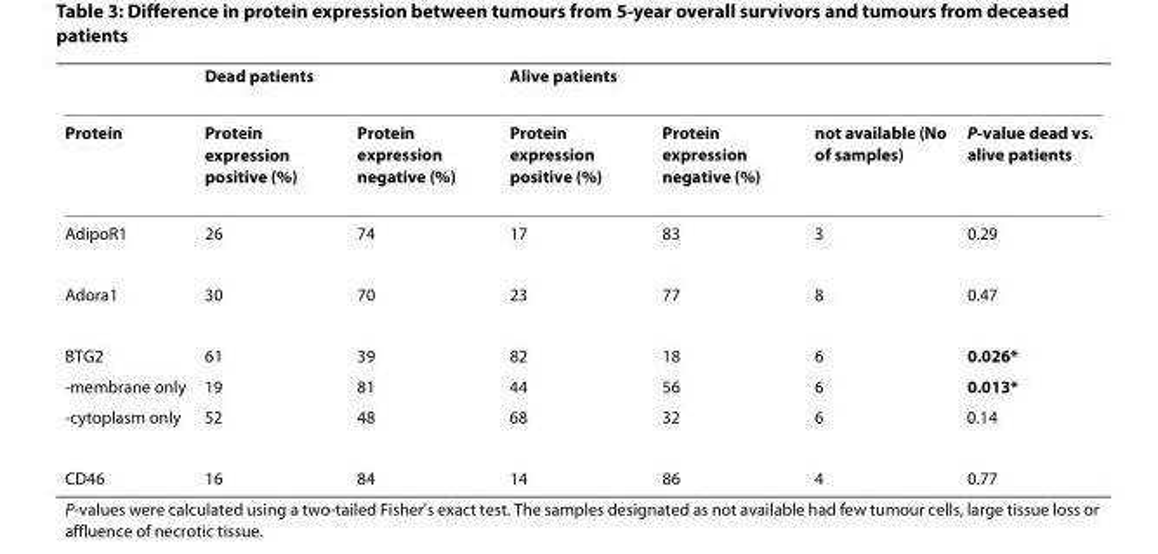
<table><thead><tr><td rowspan="2">Protein</td><td colspan="2">Dead patients</td><td colspan="2">Alive patients</td><td rowspan="2">not available (No of samples)</td><td rowspan="2">P-value dead vs. alive patients</td></tr><tr><td>Protein expression positive (%)</td><td>Protein expression negative (%)</td><td>Protein expression positive (%)</td><td>Protein expression negative (%)</td></tr></thead><tbody><tr><td>AdipoR1</td><td>26</td><td>74</td><td>17</td><td>83</td><td>3</td><td>0.29</td></tr><tr><td>Adora1</td><td>30</td><td>70</td><td>23</td><td>77</td><td>8</td><td>0.47</td></tr><tr><td>BTG2</td><td>61</td><td>39</td><td>82</td><td>18</td><td>6</td><td>0.026*</td></tr><tr><td>-membrane only</td><td>19</td><td>81</td><td>44</td><td>56</td><td>6</td><td>0.013*</td></tr><tr><td>-cytoplasm only</td><td>52</td><td>48</td><td>68</td><td>32</td><td>6</td><td>0.14</td></tr><tr><td>CD46</td><td>16</td><td>84</td><td>14</td><td>86</td><td>4</td><td>0.77</td></tr></tbody></table>